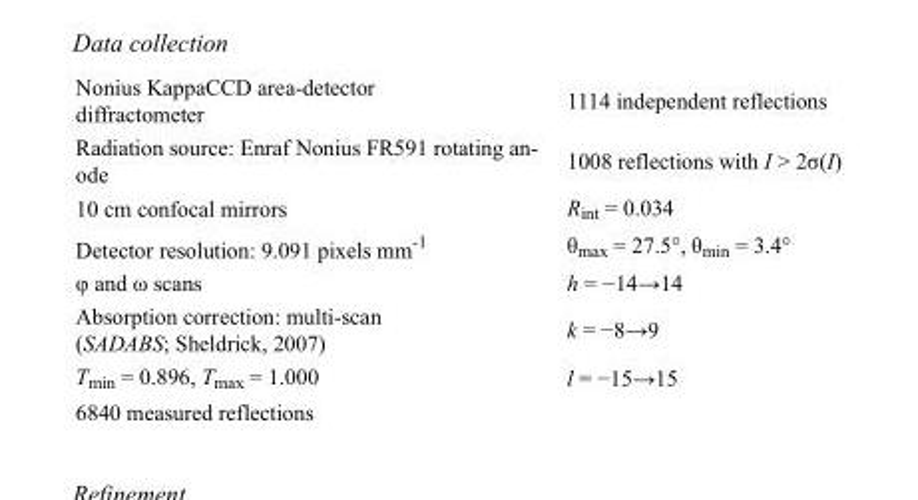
<table><tbody><tr><td>Nonius KappaCCD area-detector diffractometer</td><td>1114 independent reflections</td></tr><tr><td>Radiation source: Enraf Nonius FR591 rotating an- ode</td><td>1008 reflections with I &gt; 2σ(I)</td></tr><tr><td>10 cm confocal mirrors</td><td>R<sub>int</sub> = 0.034</td></tr><tr><td>Detector resolution: 9.091 pixels mm<sup>-1</sup></td><td>θ<sub>max</sub> = 27.5°, θ<sub>min</sub> = 3.4°</td></tr><tr><td>φ and ω scans</td><td>h = −14→14</td></tr><tr><td>Absorption correction: multi-scan (SADABS; Sheldrick, 2007)</td><td>k = −8→9</td></tr><tr><td>T<sub>min</sub> = 0.896, T<sub>max</sub> = 1.000</td><td>l = −15→15</td></tr><tr><td>6840 measured reflections</td><td></td></tr></tbody></table>